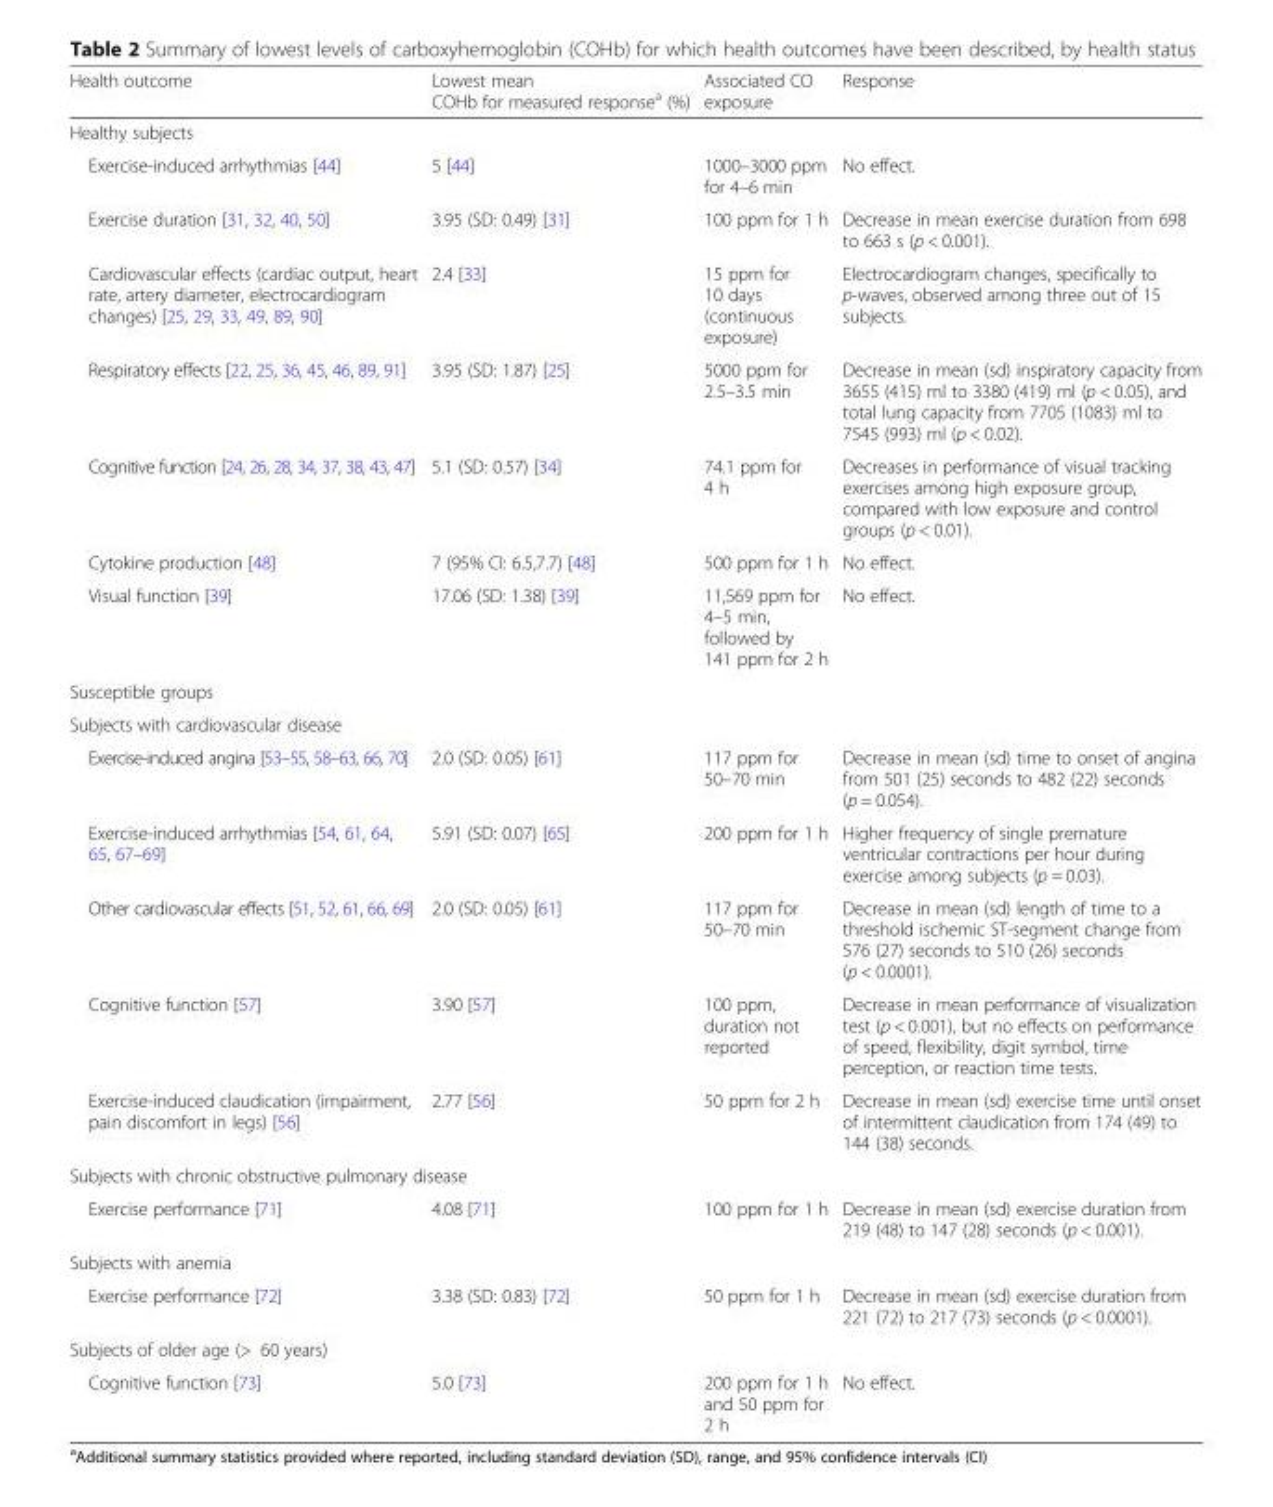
<table><thead><tr><td>Health outcome</td><td>Lowest mean COHb for measured response<sup>a</sup> (%)</td><td>Associated CO exposure</td><td>Response</td></tr></thead><tbody><tr><td colspan="4">Healthy subjects</td></tr><tr><td>Exercise-induced arrhythmias [44]</td><td>5 [44]</td><td>1000–3000 ppm for 4–6 min</td><td>No effect.</td></tr><tr><td>Exercise duration [31, 32, 40, 50]</td><td>3.95 (SD: 0.49) [31]</td><td>100 ppm for 1 h</td><td>Decrease in mean exercise duration from 698 to 663 s (p &lt; 0.001).</td></tr><tr><td>Cardiovascular effects (cardiac output, heart rate, artery diameter, electrocardiogram changes) [25, 29, 33, 49, 89, 90]</td><td>2.4 [33]</td><td>15 ppm for 10 days (continuous exposure)</td><td>Electrocardiogram changes, specifically to p-waves, observed among three out of 15 subjects.</td></tr><tr><td>Respiratory effects [22, 25, 36, 45, 46, 89, 91]</td><td>3.95 (SD: 1.87) [25]</td><td>5000 ppm for 2.5–3.5 min</td><td>Decrease in mean (sd) inspiratory capacity from 3655 (415) ml to 3380 (419) ml (p &lt; 0.05), and total lung capacity from 7705 (1083) ml to 7545 (993) ml (p &lt; 0.02).</td></tr><tr><td>Cognitive function [24, 26, 28, 34, 37, 38, 43, 47]</td><td>5.1 (SD: 0.57) [34]</td><td>74.1 ppm for 4 h</td><td>Decreases in performance of visual tracking exercises among high exposure group, compared with low exposure and control groups (p &lt; 0.01).</td></tr><tr><td>Cytokine production [48]</td><td>7 (95% CI: 6.5,7.7) [48]</td><td>500 ppm for 1 h</td><td>No effect.</td></tr><tr><td>Visual function [39]</td><td>17.06 (SD: 1.38) [39]</td><td>11,569 ppm for 4–5 min, followed by 141 ppm for 2 h</td><td>No effect.</td></tr><tr><td colspan="4">Susceptible groups</td></tr><tr><td colspan="4">Subjects with cardiovascular disease</td></tr><tr><td>Exercise-induced angina [53–55, 58–63, 66, 70]</td><td>2.0 (SD: 0.05) [61]</td><td>117 ppm for 50–70 min</td><td>Decrease in mean (sd) time to onset of angina from 501 (25) seconds to 482 (22) seconds (p = 0.054).</td></tr><tr><td>Exercise-induced arrhythmias [54, 61, 64, 65, 67–69]</td><td>5.91 (SD: 0.07) [65]</td><td>200 ppm for 1 h</td><td>Higher frequency of single premature ventricular contractions per hour during exercise among subjects (p = 0.03).</td></tr><tr><td>Other cardiovascular effects [51, 52, 61, 66, 69]</td><td>2.0 (SD: 0.05) [61]</td><td>117 ppm for 50–70 min</td><td>Decrease in mean (sd) length of time to a threshold ischemic ST-segment change from 576 (27) seconds to 510 (26) seconds (p &lt; 0.0001).</td></tr><tr><td>Cognitive function [57]</td><td>3.90 [57]</td><td>100 ppm, duration not reported</td><td>Decrease in mean performance of visualization test (p &lt; 0.001), but no effects on performance of speed, flexibility, digit symbol, time perception, or reaction time tests.</td></tr><tr><td>Exercise-induced claudication (impairment, pain discomfort in legs) [56]</td><td>2.77 [56]</td><td>50 ppm for 2 h</td><td>Decrease in mean (sd) exercise time until onset of intermittent claudication from 174 (49) to 144 (38) seconds.</td></tr><tr><td colspan="4">Subjects with chronic obstructive pulmonary disease</td></tr><tr><td>Exercise performance [71]</td><td>4.08 [71]</td><td>100 ppm for 1 h</td><td>Decrease in mean (sd) exercise duration from 219 (48) to 147 (28) seconds (p &lt; 0.001).</td></tr><tr><td colspan="4">Subjects with anemia</td></tr><tr><td>Exercise performance [72]</td><td>3.38 (SD: 0.83) [72]</td><td>50 ppm for 1 h</td><td>Decrease in mean (sd) exercise duration from 221 (72) to 217 (73) seconds (p &lt; 0.0001).</td></tr><tr><td colspan="4">Subjects of older age (&gt; 60 years)</td></tr><tr><td>Cognitive function [73]</td><td>5.0 [73]</td><td>200 ppm for 1 h and 50 ppm for 2 h</td><td>No effect.</td></tr></tbody></table>